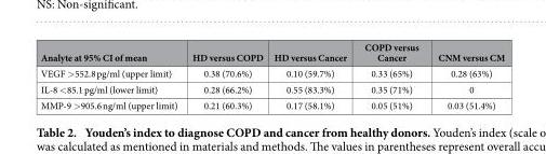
<table><thead><tr><td>Analyte at 95% CI of mean</td><td>HD versus COPD</td><td>HD versus Cancer</td><td>COPD versus Cancer</td><td>CNM versus CM</td></tr></thead><tbody><tr><td>VEGF &gt; 552.8 pg/ml (upper limit)</td><td>0.38 (70.6%)</td><td>0.10 (59.7%)</td><td>0.33 (65%)</td><td>0.28 (63%)</td></tr><tr><td>IL-8 &lt; 85.1 pg/ml (lower limit)</td><td>0.28 (66.2%)</td><td>0.55 (83.3%)</td><td>0.35 (71%)</td><td>0</td></tr><tr><td>MMP-9 &gt; 905.6 ng/ml (upper limit)</td><td>0.21 (60.3%)</td><td>0.17 (58.1%)</td><td>0.05 (51%)</td><td>0.03 (51.4%)</td></tr></tbody></table>